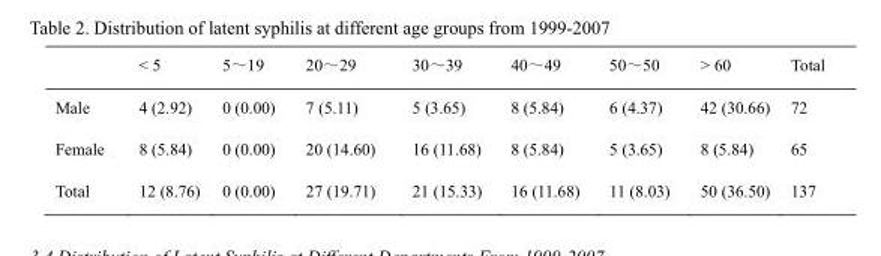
<table><thead><tr><td></td><td>&lt; 5</td><td>5～19</td><td>20～29</td><td>30～39</td><td>40～49</td><td>50～50</td><td>&gt; 60</td><td>Total</td></tr></thead><tbody><tr><td>Male</td><td>4 (2.92)</td><td>0 (0.00)</td><td>7 (5.11)</td><td>5 (3.65)</td><td>8 (5.84)</td><td>6 (4.37)</td><td>42 (30.66)</td><td>72</td></tr><tr><td>Female</td><td>8 (5.84)</td><td>0 (0.00)</td><td>20 (14.60)</td><td>16 (11.68)</td><td>8 (5.84)</td><td>5 (3.65)</td><td>8 (5.84)</td><td>65</td></tr><tr><td>Total</td><td>12 (8.76)</td><td>0 (0.00)</td><td>27 (19.71)</td><td>21 (15.33)</td><td>16 (11.68)</td><td>11 (8.03)</td><td>50 (36.50)</td><td>137</td></tr></tbody></table>